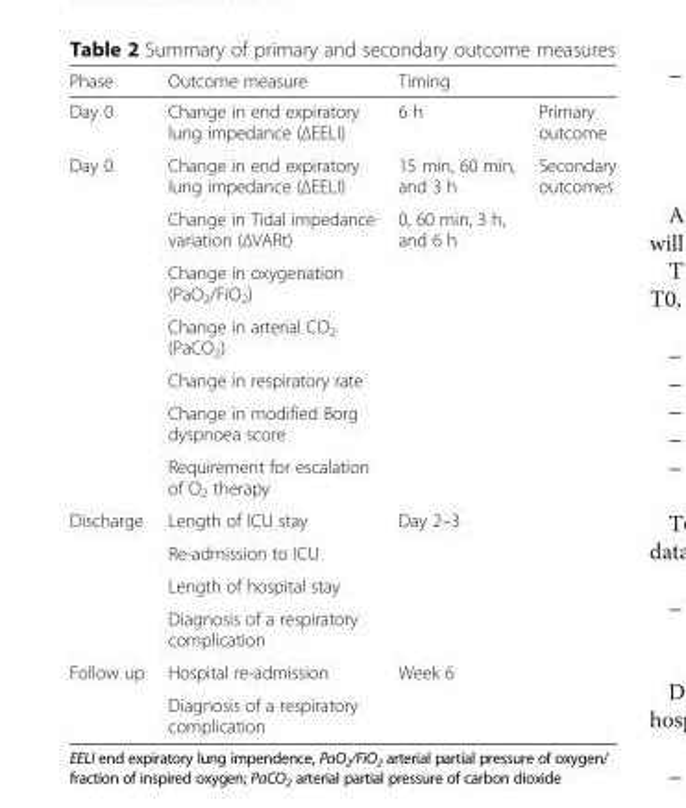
<table><thead><tr><td>Phase</td><td>Outcome measure</td><td>Timing</td><td></td></tr></thead><tbody><tr><td>Day 0</td><td>Change in end expiratory lung impedance (ΔEELI)</td><td>6 h</td><td>Primary outcome</td></tr><tr><td rowspan="7">Day 0</td><td>Change in end expiratory lung impedance (ΔEELI)</td><td>15 min, 60 min, and 3 h</td><td rowspan="13">Secondary outcomes</td></tr><tr><td>Change in Tidal impedance variation (ΔVARt)</td><td rowspan="6">0, 60 min, 3 h, and 6 h</td></tr><tr><td>Change in oxygenation (PaO<sub>2</sub>/FiO<sub>2</sub>)</td></tr><tr><td>Change in arterial CO<sub>2</sub> (PaCO<sub>2</sub>)</td></tr><tr><td>Change in respiratory rate</td></tr><tr><td>Change in modified Borg dyspnoea score</td></tr><tr><td>Requirement for escalation of O<sub>2</sub> therapy</td></tr><tr><td rowspan="4">Discharge</td><td>Length of ICU stay</td><td rowspan="4">Day 2–3</td></tr><tr><td>Re-admission to ICU</td></tr><tr><td>Length of hospital stay</td></tr><tr><td>Diagnosis of a respiratory complication</td></tr><tr><td rowspan="2">Follow up</td><td>Hospital re-admission</td><td rowspan="2">Week 6</td></tr><tr><td>Diagnosis of a respiratory complication</td></tr></tbody></table>